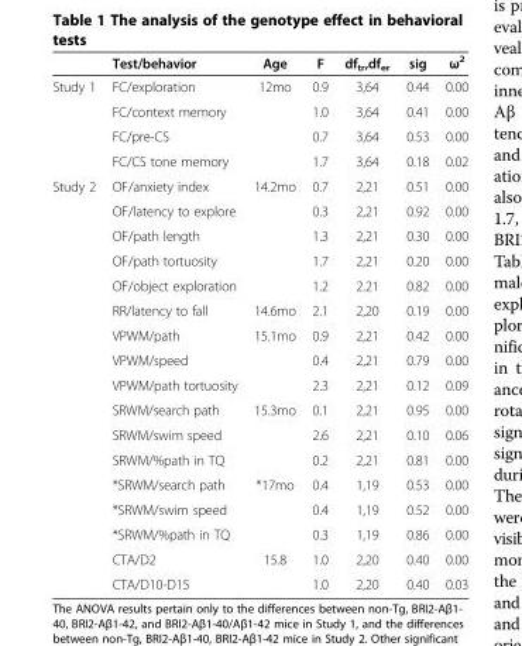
<table><thead><tr><td></td><td>Test/behavior</td><td>Age</td><td>F</td><td>df<sub>tr</sub>,df<sub>er</sub></td><td>sig</td><td>ω<sup>2</sup></td></tr></thead><tbody><tr><td rowspan="4">Study 1</td><td>FC/exploration</td><td>12mo</td><td>0.9</td><td>3,64</td><td>0.44</td><td>0.00</td></tr><tr><td>FC/context memory</td><td></td><td>1.0</td><td>3,64</td><td>0.41</td><td>0.00</td></tr><tr><td>FC/pre-CS</td><td></td><td>0.7</td><td>3,64</td><td>0.53</td><td>0.00</td></tr><tr><td>FC/CS tone memory</td><td></td><td>1.7</td><td>3,64</td><td>0.18</td><td>0.02</td></tr><tr><td rowspan="17">Study 2</td><td>OF/anxiety index</td><td>14.2mo</td><td>0.7</td><td>2,21</td><td>0.51</td><td>0.00</td></tr><tr><td>OF/latency to explore</td><td></td><td>0.3</td><td>2,21</td><td>0.92</td><td>0.00</td></tr><tr><td>OF/path length</td><td></td><td>1.3</td><td>2,21</td><td>0.30</td><td>0.00</td></tr><tr><td>OF/path tortuosity</td><td></td><td>1.7</td><td>2,21</td><td>0.20</td><td>0.00</td></tr><tr><td>OF/object exploration</td><td></td><td>1.2</td><td>2.21</td><td>0.82</td><td>0.00</td></tr><tr><td>RR/latency to fall</td><td>14.6mo</td><td>2.1</td><td>2,20</td><td>0.19</td><td>0.00</td></tr><tr><td>VPWM/path</td><td>15.1mo</td><td>0.9</td><td>2,21</td><td>0.42</td><td>0.00</td></tr><tr><td>VPWM/speed</td><td></td><td>0.4</td><td>2,21</td><td>0.79</td><td>0.00</td></tr><tr><td>VPWM/path tortuosity</td><td></td><td>2.3</td><td>2,21</td><td>0.12</td><td>0.09</td></tr><tr><td>SRWM/search path</td><td>15.3mo</td><td>0.1</td><td>2,21</td><td>0.95</td><td>0.00</td></tr><tr><td>SRWM/swim speed</td><td></td><td>2.6</td><td>2,21</td><td>0.10</td><td>0.06</td></tr><tr><td>SRWM/%path in TQ</td><td></td><td>0.2</td><td>2,21</td><td>0.81</td><td>0.00</td></tr><tr><td>*SRWM/search path</td><td>*17mo</td><td>0.4</td><td>1,19</td><td>0.53</td><td>0.00</td></tr><tr><td>*SRWM/swim speed</td><td></td><td>0.4</td><td>1,19</td><td>0.52</td><td>0.00</td></tr><tr><td>*SRWM/%path in TQ</td><td></td><td>0.3</td><td>1,19</td><td>0.86</td><td>0.00</td></tr><tr><td>CTA/D2</td><td>15.8</td><td>1.0</td><td>2,20</td><td>0.40</td><td>0.00</td></tr><tr><td>CTA/D10-D15</td><td></td><td>1.0</td><td>2,20</td><td>0.40</td><td>0.03</td></tr></tbody></table>